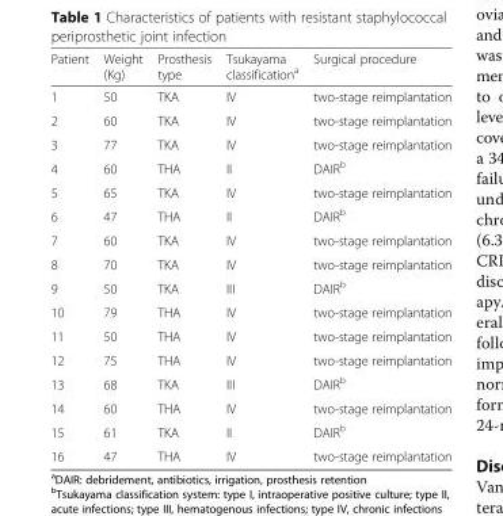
<table><thead><tr><td>Patient</td><td>Weight (Kg)</td><td>Prosthesis type</td><td>Tsukayama classification<sup>a</sup></td><td>Surgical procedure</td></tr></thead><tbody><tr><td>1</td><td>50</td><td>TKA</td><td>IV</td><td>two-stage reimplantation</td></tr><tr><td>2</td><td>60</td><td>TKA</td><td>IV</td><td>two-stage reimplantation</td></tr><tr><td>3</td><td>77</td><td>TKA</td><td>IV</td><td>two-stage reimplantation</td></tr><tr><td>4</td><td>60</td><td>THA</td><td>II</td><td>DAIR<sup>b</sup></td></tr><tr><td>5</td><td>65</td><td>TKA</td><td>IV</td><td>two-stage reimplantation</td></tr><tr><td>6</td><td>47</td><td>THA</td><td>II</td><td>DAIR<sup>b</sup></td></tr><tr><td>7</td><td>60</td><td>TKA</td><td>IV</td><td>two-stage reimplantation</td></tr><tr><td>8</td><td>70</td><td>TKA</td><td>IV</td><td>two-stage reimplantation</td></tr><tr><td>9</td><td>50</td><td>TKA</td><td>III</td><td>DAIR<sup>b</sup></td></tr><tr><td>10</td><td>79</td><td>THA</td><td>IV</td><td>two-stage reimplantation</td></tr><tr><td>11</td><td>50</td><td>THA</td><td>IV</td><td>two-stage reimplantation</td></tr><tr><td>12</td><td>75</td><td>THA</td><td>IV</td><td>two-stage reimplantation</td></tr><tr><td>13</td><td>68</td><td>TKA</td><td>III</td><td>DAIR<sup>b</sup></td></tr><tr><td>14</td><td>60</td><td>THA</td><td>IV</td><td>two-stage reimplantation</td></tr><tr><td>15</td><td>61</td><td>TKA</td><td>II</td><td>DAIR<sup>b</sup></td></tr><tr><td>16</td><td>47</td><td>THA</td><td>IV</td><td>two-stage reimplantation</td></tr></tbody></table>